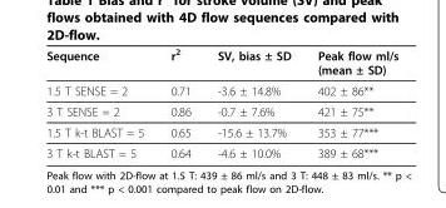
<table><thead><tr><td>Sequence</td><td>r<sup>2</sup></td><td>SV, bias ± SD</td><td>Peak flow ml/s (mean ± SD)</td></tr></thead><tbody><tr><td>1.5 T SENSE = 2</td><td>0.71</td><td>-3.6 ± 14.8%</td><td>402 ± 86**</td></tr><tr><td>3 T SENSE = 2</td><td>0.86</td><td>-0.7 ± 7.6%</td><td>421 ± 75**</td></tr><tr><td>1.5 T k-t BLAST = 5</td><td>0.65</td><td>-15.6 ± 13.7%</td><td>353 ± 77***</td></tr><tr><td>3 T k-t BLAST = 5</td><td>0.64</td><td>-4.6 ± 10.0%</td><td>389 ± 68***</td></tr></tbody></table>